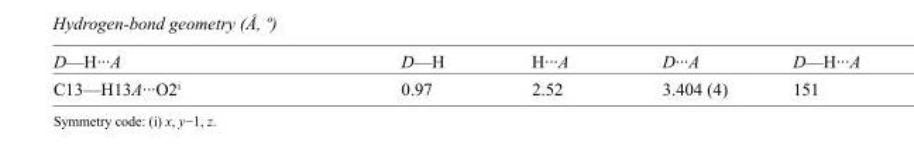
<table><tbody><tr><td>D—H···A</td><td>D—H</td><td>H···A</td><td>D···A</td><td>D—H···A</td></tr><tr><td>C13—H13A···O2<sup>i</sup></td><td>0.97</td><td>2.52</td><td>3.404 (4)</td><td>151</td></tr></tbody></table>